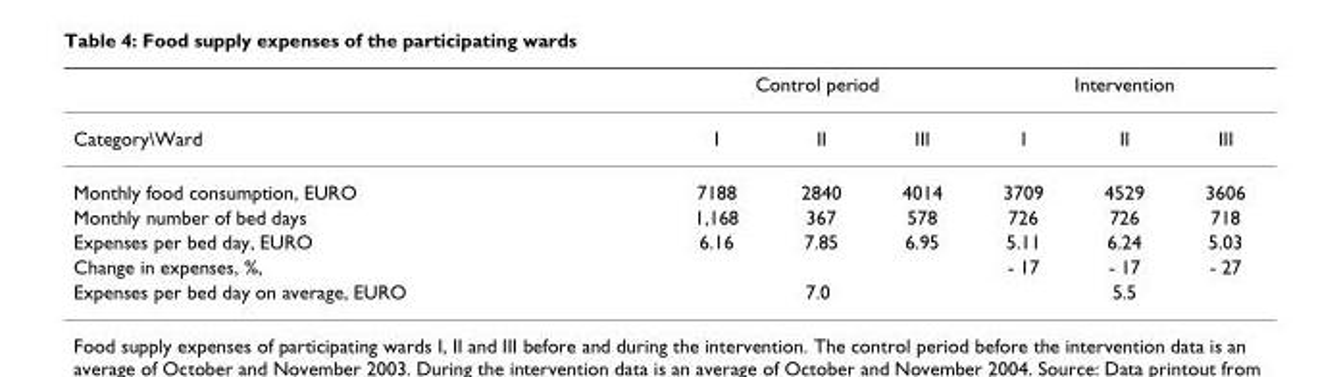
<table><thead><tr><td rowspan="2">Category\Ward</td><td colspan="3">Control period</td><td colspan="3">Intervention</td></tr><tr><td>I</td><td>II</td><td>III</td><td>I</td><td>II</td><td>III</td></tr></thead><tbody><tr><td>Monthly food consumption, EURO</td><td>7188</td><td>2840</td><td>4014</td><td>3709</td><td>4529</td><td>3606</td></tr><tr><td>Monthly number of bed days</td><td>1,168</td><td>367</td><td>578</td><td>726</td><td>726</td><td>718</td></tr><tr><td>Expenses per bed day, EURO</td><td>6.16</td><td>7.85</td><td>6.95</td><td>5.11</td><td>6.24</td><td>5.03</td></tr><tr><td>Change in expenses, %,</td><td></td><td></td><td></td><td>- 17</td><td>- 17</td><td>- 27</td></tr><tr><td>Expenses per bed day on average, EURO</td><td colspan="3">7.0</td><td colspan="3">5.5</td></tr></tbody></table>